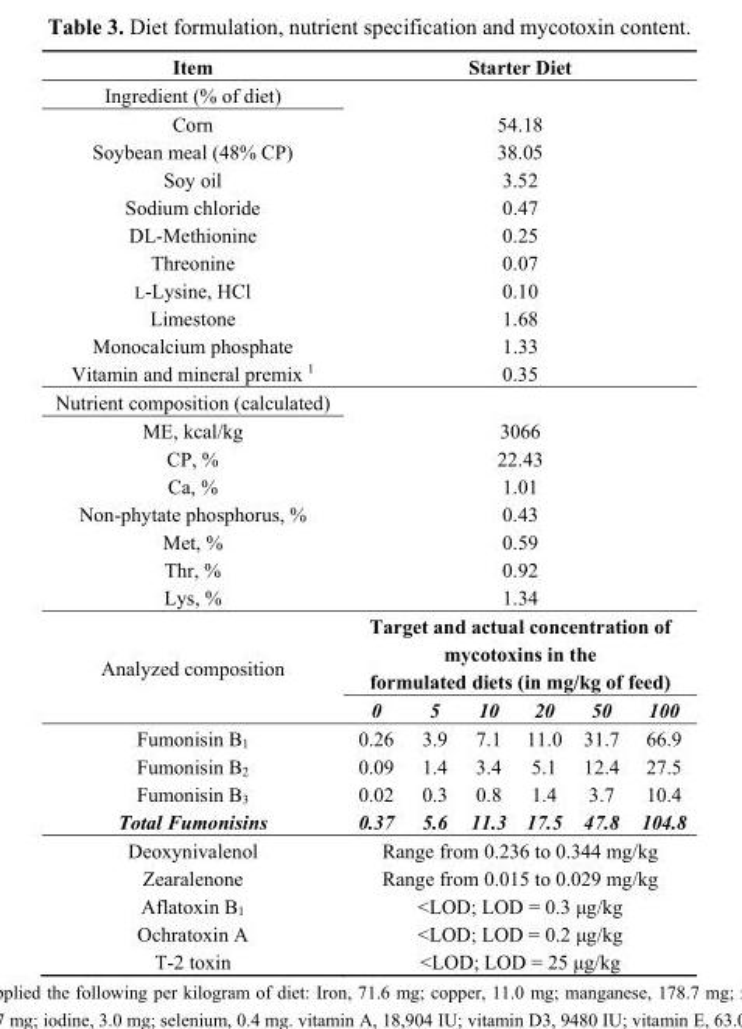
<table><thead><tr><td>Item</td><td colspan="6">Starter Diet</td></tr></thead><tbody><tr><td colspan="7">Ingredient (% of diet)</td></tr><tr><td>Corn</td><td colspan="6">54.18</td></tr><tr><td>Soybean meal (48% CP)</td><td colspan="6">38.05</td></tr><tr><td>Soy oil</td><td colspan="6">3.52</td></tr><tr><td>Sodium chloride</td><td colspan="6">0.47</td></tr><tr><td>DL-Methionine</td><td colspan="6">0.25</td></tr><tr><td>Threonine</td><td colspan="6">0.07</td></tr><tr><td>L-Lysine, HCl</td><td colspan="6">0.10</td></tr><tr><td>Limestone</td><td colspan="6">1.68</td></tr><tr><td>Monocalcium phosphate</td><td colspan="6">1.33</td></tr><tr><td>Vitamin and mineral premix <sup>1</sup></td><td colspan="6">0.35</td></tr><tr><td colspan="7">Nutrient composition (calculated)</td></tr><tr><td>ME, kcal/kg</td><td colspan="6">3066</td></tr><tr><td>CP, %</td><td colspan="6">22.43</td></tr><tr><td>Ca, %</td><td colspan="6">1.01</td></tr><tr><td>Non-phytate phosphorus, %</td><td colspan="6">0.43</td></tr><tr><td>Met, %</td><td colspan="6">0.59</td></tr><tr><td>Thr, %</td><td colspan="6">0.92</td></tr><tr><td>Lys, %</td><td colspan="6">1.34</td></tr><tr><td rowspan="2">Analyzed composition</td><td colspan="6">Target and actual concentration of mycotoxins in the formulated diets (in mg/kg of feed)</td></tr><tr><td>0</td><td>5</td><td>10</td><td>20</td><td>50</td><td>100</td></tr><tr><td>Fumonisin B<sub>1</sub></td><td>0.26</td><td>3.9</td><td>7.1</td><td>11.0</td><td>31.7</td><td>66.9</td></tr><tr><td>Fumonisin B<sub>2</sub></td><td>0.09</td><td>1.4</td><td>3.4</td><td>5.1</td><td>12.4</td><td>27.5</td></tr><tr><td>Fumonisin B<sub>3</sub></td><td>0.02</td><td>0.3</td><td>0.8</td><td>1.4</td><td>3.7</td><td>10.4</td></tr><tr><td>Total Fumonisins</td><td>0.37</td><td>5.6</td><td>11.3</td><td>17.5</td><td>47.8</td><td>104.8</td></tr><tr><td>Deoxynivalenol</td><td colspan="6">Range from 0.236 to 0.344 mg/kg</td></tr><tr><td>Zearalenone</td><td colspan="6">Range from 0.015 to 0.029 mg/kg</td></tr><tr><td>Aflatoxin B<sub>1</sub></td><td colspan="6">&lt;LOD; LOD = 0.3 μg/kg</td></tr><tr><td>Ochratoxin A</td><td colspan="6">&lt;LOD; LOD = 0.2 μg/kg</td></tr><tr><td>T-2 toxin</td><td colspan="6">&lt;LOD; LOD = 25 μg/kg</td></tr></tbody></table>